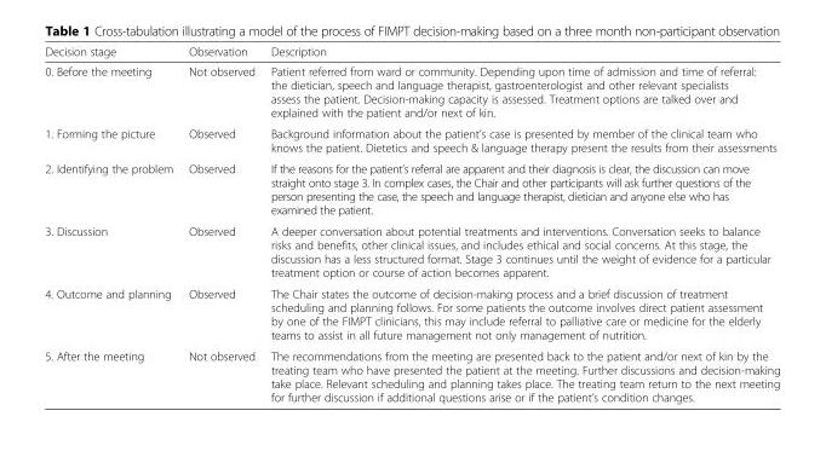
<table><thead><tr><td>Decision stage</td><td>Observation</td><td>Description</td></tr></thead><tbody><tr><td>0. Before the meeting</td><td>Not observed</td><td>Patient referred from ward or community. Depending upon time of admission and time of referral: the dietician, speech and language therapist, gastroenterologist and other relevant specialists assess the patient. Decision-making capacity is assessed. Treatment options are talked over and explained with the patient and/or next of kin.</td></tr><tr><td>1. Forming the picture</td><td>Observed</td><td>Background information about the patient’s case is presented by member of the clinical team who knows the patient. Dietetics and speech &amp; language therapy present the results from their assessments</td></tr><tr><td>2. Identifying the problem</td><td>Observed</td><td>If the reasons for the patient’s referral are apparent and their diagnosis is clear, the discussion can move straight onto stage 3. In complex cases, the Chair and other participants will ask further questions of the person presenting the case, the speech and language therapist, dietician and anyone else who has examined the patient.</td></tr><tr><td>3. Discussion</td><td>Observed</td><td>A deeper conversation about potential treatments and interventions. Conversation seeks to balance risks and benefits, other clinical issues, and includes ethical and social concerns. At this stage, the discussion has a less structured format. Stage 3 continues until the weight of evidence for a particular treatment option or course of action becomes apparent.</td></tr><tr><td>4. Outcome and planning</td><td>Observed</td><td>The Chair states the outcome of decision-making process and a brief discussion of treatment scheduling and planning follows. For some patients the outcome involves direct patient assessment by one of the FIMPT clinicians, this may include referral to palliative care or medicine for the elderly teams to assist in all future management not only management of nutrition.</td></tr><tr><td>5. After the meeting</td><td>Not observed</td><td>The recommendations from the meeting are presented back to the patient and/or next of kin by the treating team who have presented the patient at the meeting. Further discussions and decision-making take place. Relevant scheduling and planning takes place. The treating team return to the next meeting for further discussion if additional questions arise or if the patient’s condition changes.</td></tr></tbody></table>